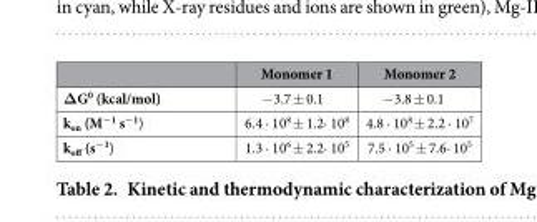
<table><thead><tr><td></td><td>Monomer 1</td><td>Monomer 2</td></tr></thead><tbody><tr><td>ΔG<sup>0</sup> (kcal/mol)</td><td>−3.7 ± 0.1</td><td>−3.8 ± 0.1</td></tr><tr><td>k<sub>on</sub> (M<sup>−1</sup> s<sup>−1</sup>)</td><td>6.4 · 10<sup>8</sup> ± 1.2· 10<sup>8</sup></td><td>4.8 · 10<sup>8</sup> ± 2.2 · 10<sup>7</sup></td></tr><tr><td>k<sub>off</sub> (s<sup>−1</sup>)</td><td>1.3 · 10<sup>6</sup> ± 2.2· 10<sup>5</sup></td><td>7.5 · 10<sup>5</sup> ± 7.6· 10<sup>5</sup></td></tr></tbody></table>